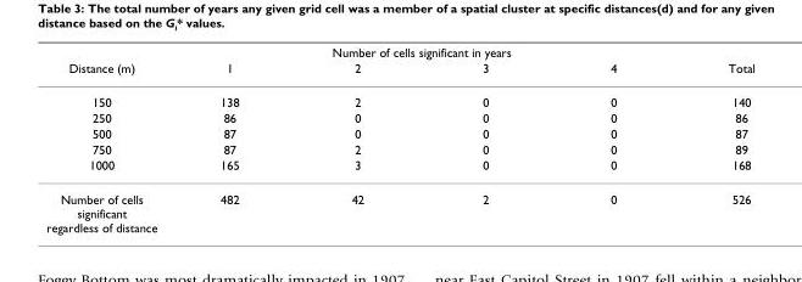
<table><thead><tr><td rowspan="2">Distance (m)</td><td colspan="4">Number of cells significant in years</td><td rowspan="2">Total</td></tr><tr><td>1</td><td>2</td><td>3</td><td>4</td></tr></thead><tbody><tr><td>150</td><td>138</td><td>2</td><td>0</td><td>0</td><td>140</td></tr><tr><td>250</td><td>86</td><td>0</td><td>0</td><td>0</td><td>86</td></tr><tr><td>500</td><td>87</td><td>0</td><td>0</td><td>0</td><td>87</td></tr><tr><td>750</td><td>87</td><td>2</td><td>0</td><td>0</td><td>89</td></tr><tr><td>1000</td><td>165</td><td>3</td><td>0</td><td>0</td><td>168</td></tr><tr><td>Number of cells significant regardless of distance</td><td>482</td><td>42</td><td>2</td><td>0</td><td>526</td></tr></tbody></table>